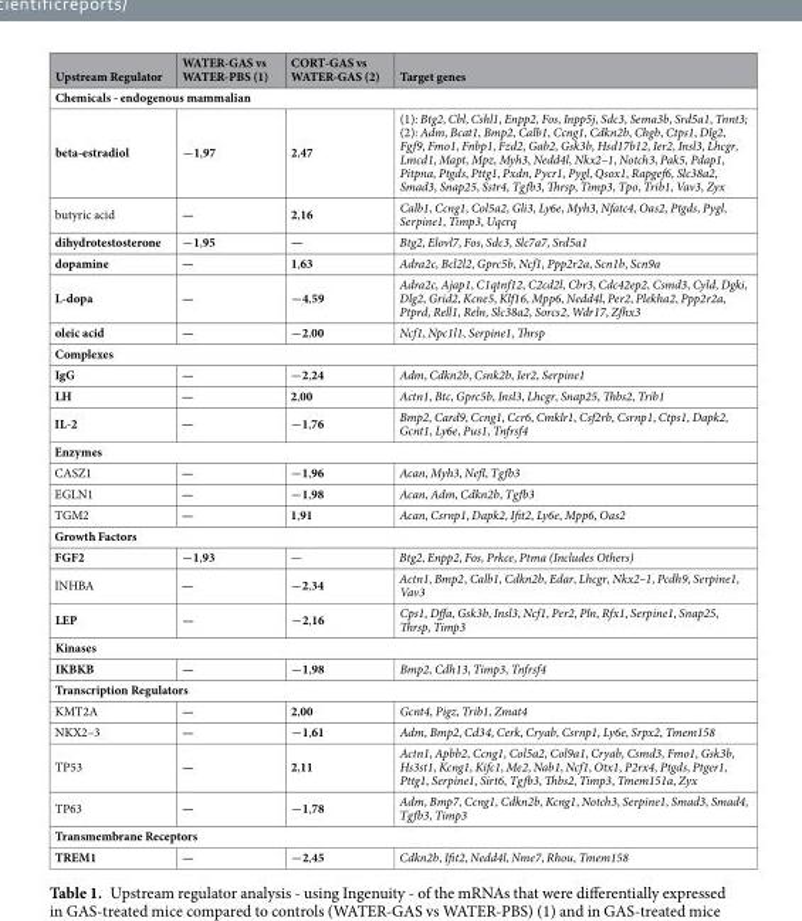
<table><thead><tr><td>Upstream Regulator</td><td>WATER-GAS vs WATER-PBS (1)</td><td>CORT-GAS vs WATER-GAS (2)</td><td>Target genes</td></tr></thead><tbody><tr><td colspan="4">Chemicals - endogenous mammalian</td></tr><tr><td>beta-estradiol</td><td>−1,97</td><td>2,47</td><td>(1): Btg2, Cbl, Cshl1, Enpp2, Fos, Inpp5j, Sdc3, Sema3b, Srd5a1, Tnnt3; (2): Adm, Bcat1, Bmp2, Calb1, Ccng1, Cdkn2b, Chgb, Ctps1, Dlg2, Fgf9, Fmo1, Fnbp1, Fzd2, Gab2, Gsk3b, Hsd17b12, Ier2, Insl3, Lhcgr, Lmcd1, Mapt, Mpz, Myh3, Nedd4l, Nkx2–1, Notch3, Pak5, Pdap1, Pitpna, Ptgds, Pttg1, Pxdn, Pycr1, Pygl, Qsox1, Rapgef6, Slc38a2, Smad3, Snap25, Sstr4, Tgfb3, Thrsp, Timp3, Tpo, Trib1, Vav3, Zyx</td></tr><tr><td>butyric acid</td><td>—</td><td>2,16</td><td>Calb1, Ccng1, Col5a2, Gli3, Ly6e, Myh3, Nfatc4, Oas2, Ptgds, Pygl, Serpine1, Timp3, Uqcrq</td></tr><tr><td>dihydrotestosterone</td><td>−1,95</td><td>—</td><td>Btg2, Elovl7, Fos, Sdc3, Slc7a7, Srd5a1</td></tr><tr><td>dopamine</td><td>—</td><td>1,63</td><td>Adra2c, Bcl2l2, Gprc5b, Ncf1, Ppp2r2a, Scn1b, Scn9a</td></tr><tr><td>L-dopa</td><td>—</td><td>−4,59</td><td>Adra2c, Ajap1, C1qtnf12, C2cd2l, Cbr3, Cdc42ep2, Csmd3, Cyld, Dgki, Dlg2, Grid2, Kcne5, Klf16, Mpp6, Nedd4l, Per2, Plekha2, Ppp2r2a, Ptprd, Rell1, Reln, Slc38a2, Sorcs2, Wdr17, Zfhx3</td></tr><tr><td>oleic acid</td><td>—</td><td>−2,00</td><td>Ncf1, Npc1l1, Serpine1, Thrsp</td></tr><tr><td colspan="4">Complexes</td></tr><tr><td>IgG</td><td>—</td><td>−2,24</td><td>Adm, Cdkn2b, Csnk2b, Ier2, Serpine1</td></tr><tr><td>LH</td><td>—</td><td>2,00</td><td>Actn1, Btc, Gprc5b, Insl3, Lhcgr, Snap25, Thbs2, Trib1</td></tr><tr><td>IL-2</td><td>—</td><td>−1,76</td><td>Bmp2, Card9, Ccng1, Ccr6, Cmklr1, Csf2rb, Csrnp1, Ctps1, Dapk2, Gcnt1, Ly6e, Pus1, Tnfrsf4</td></tr><tr><td colspan="4">Enzymes</td></tr><tr><td>CASZ1</td><td>—</td><td>−1,96</td><td>Acan, Myh3, Nefl, Tgfb3</td></tr><tr><td>EGLN1</td><td>—</td><td>−1,98</td><td>Acan, Adm, Cdkn2b, Tgfb3</td></tr><tr><td>TGM2</td><td>—</td><td>1,91</td><td>Acan, Csrnp1, Dapk2, Ifit2, Ly6e, Mpp6, Oas2</td></tr><tr><td colspan="4">Growth Factors</td></tr><tr><td>FGF2</td><td>−1,93</td><td>—</td><td>Btg2, Enpp2, Fos, Prkce, Ptma (Includes Others)</td></tr><tr><td>INHBA</td><td>—</td><td>−2,34</td><td>Actn1, Bmp2, Calb1, Cdkn2b, Edar, Lhcgr, Nkx2–1, Pcdh9, Serpine1, Vav3</td></tr><tr><td>LEP</td><td>—</td><td>−2,16</td><td>Cps1, Dffa, Gsk3b, Insl3, Ncf1, Per2, Pln, Rfx1, Serpine1, Snap25, Thrsp, Timp3</td></tr><tr><td colspan="4">Kinases</td></tr><tr><td>IKBKB</td><td>—</td><td>−1,98</td><td>Bmp2, Cdh13, Timp3, Tnfrsf4</td></tr><tr><td colspan="4">Transcription Regulators</td></tr><tr><td>KMT2A</td><td>—</td><td>2,00</td><td>Gcnt4, Pigz, Trib1, Zmat4</td></tr><tr><td>NKX2–3</td><td>—</td><td>−1,61</td><td>Adm, Bmp2, Cd34, Cerk, Cryab, Csrnp1, Ly6e, Srpx2, Tmem158</td></tr><tr><td>TP53</td><td>—</td><td>2,11</td><td>Actn1, Apbb2, Ccng1, Col5a2, Col9a1, Cryab, Csmd3, Fmo1, Gsk3b, Hs3st1, Kcng1, Kifc1, Me2, Nab1, Ncf1, Otx1, P2rx4, Ptgds, Ptger1, Pttg1, Serpine1, Sirt6, Tgfb3, Thbs2, Timp3, Tmem151a, Zyx</td></tr><tr><td>TP63</td><td>—</td><td>−1,78</td><td>Adm, Bmp7, Ccng1, Cdkn2b, Kcng1, Notch3, Serpine1, Smad3, Smad4, Tgfb3, Timp3</td></tr><tr><td colspan="4">Transmembrane Receptors</td></tr><tr><td>TREM1</td><td>—</td><td>−2,45</td><td>Cdkn2b, Ifit2, Nedd4l, Nme7, Rhou, Tmem158</td></tr></tbody></table>